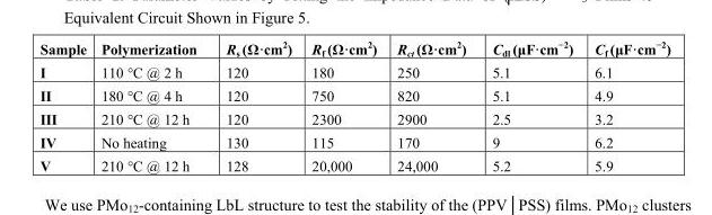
<table><thead><tr><td>Sample</td><td>Polymerization</td><td>R<sub>s</sub> (Ω·cm<sup>2</sup>)</td><td>R<sub>f</sub> (Ω·cm<sup>2</sup>)</td><td>R<sub>ct</sub> (Ω·cm<sup>2</sup>)</td><td>C<sub>dl</sub> (μF·cm<sup>−2</sup>)</td><td>C<sub>f</sub> (μF·cm<sup>−2</sup>)</td></tr></thead><tbody><tr><td>I</td><td>110 °C @ 2 h</td><td>120</td><td>180</td><td>250</td><td>5.1</td><td>6.1</td></tr><tr><td>II</td><td>180 °C @ 4 h</td><td>120</td><td>750</td><td>820</td><td>5.1</td><td>4.9</td></tr><tr><td>III</td><td>210 °C @ 12 h</td><td>120</td><td>2300</td><td>2900</td><td>2.5</td><td>3.2</td></tr><tr><td>IV</td><td>No heating</td><td>130</td><td>115</td><td>170</td><td>9</td><td>6.2</td></tr><tr><td>V</td><td>210 °C @ 12 h</td><td>128</td><td>20,000</td><td>24,000</td><td>5.2</td><td>5.9</td></tr></tbody></table>